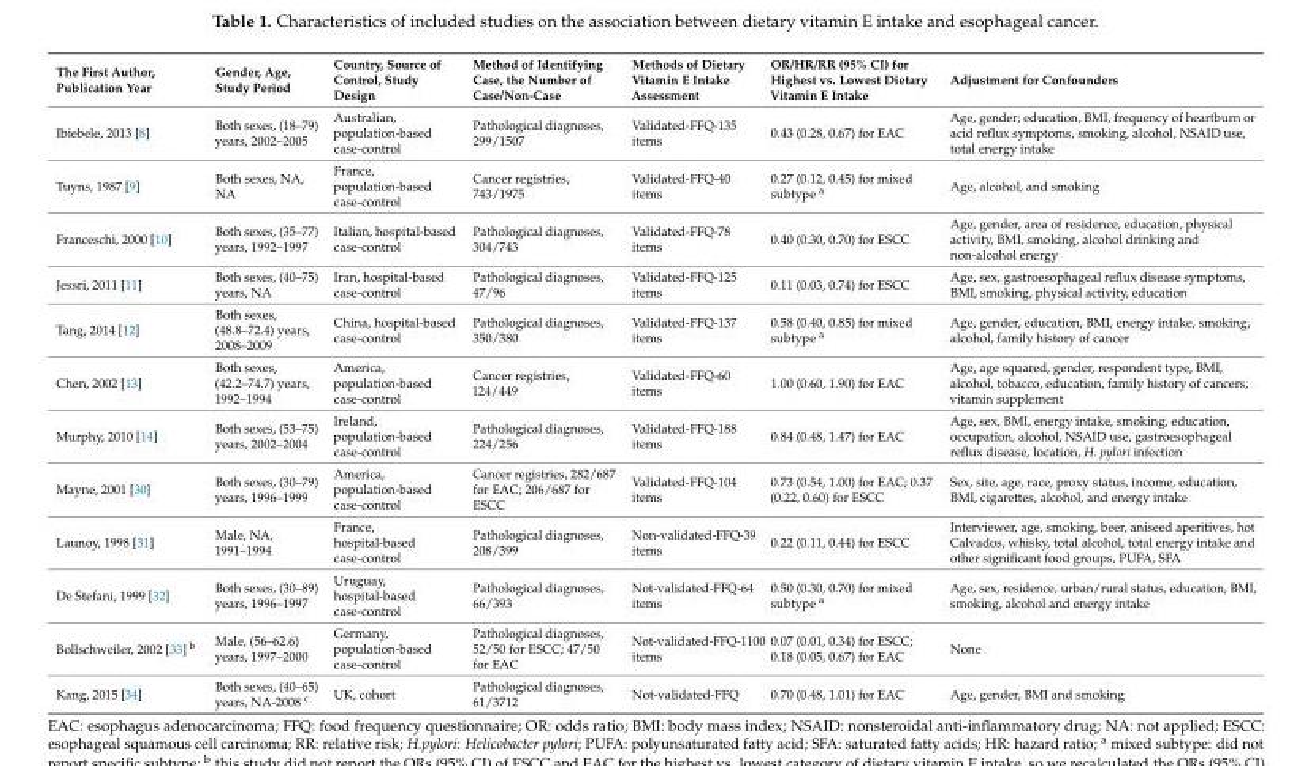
<table><thead><tr><td>The First Author, Publication Year</td><td>Gender, Age, Study Period</td><td>Country, Source of Control, Study Design</td><td>Method of Identifying Case, the Number of Case/Non-Case</td><td>Methods of Dietary Vitamin E Intake Assessment</td><td>OR/HR/RR (95% CI) for Highest vs. Lowest Dietary Vitamin E Intake</td><td>Adjustment for Confounders</td></tr></thead><tbody><tr><td>Ibiebele, 2013 [8]</td><td>Both sexes, (18–79) years, 2002–2005</td><td>Australian, population-based case-control</td><td>Pathological diagnoses, 299/1507</td><td>Validated-FFQ-135 items</td><td>0.43 (0.28, 0.67) for EAC</td><td>Age, gender; education, BMI, frequency of heartburn or acid reflux symptoms, smoking, alcohol, NSAID use, total energy intake</td></tr><tr><td>Tuyns, 1987 [9]</td><td>Both sexes, NA, NA</td><td>France, population-based case-control</td><td>Cancer registries, 743/1975</td><td>Validated-FFQ-40 items</td><td>0.27 (0.12, 0.45) for mixed subtype <sup>a</sup></td><td>Age, alcohol, and smoking</td></tr><tr><td>Franceschi, 2000 [10]</td><td>Both sexes, (35–77) years, 1992–1997</td><td>Italian, hospital-based case-control</td><td>Pathological diagnoses, 304/743</td><td>Validated-FFQ-78 items</td><td>0.40 (0.30, 0.70) for ESCC</td><td>Age, gender, area of residence, education, physical activity, BMI, smoking, alcohol drinking and non-alcohol energy</td></tr><tr><td>Jessri, 2011 [11]</td><td>Both sexes, (40–75) years, NA</td><td>Iran, hospital-based case-control</td><td>Pathological diagnoses, 47/96</td><td>Validated-FFQ-125 items</td><td>0.11 (0.03, 0.74) for ESCC</td><td>Age, sex, gastroesophageal reflux disease symptoms, BMI, smoking, physical activity, education</td></tr><tr><td>Tang, 2014 [12]</td><td>Both sexes, (48.8–72.4) years, 2008–2009</td><td>China, hospital-based case-control</td><td>Pathological diagnoses, 350/380</td><td>Validated-FFQ-137 items</td><td>0.58 (0.40, 0.85) for mixed subtype <sup>a</sup></td><td>Age, gender, education, BMI, energy intake, smoking, alcohol, family history of cancer</td></tr><tr><td>Chen, 2002 [13]</td><td>Both sexes, (42.2–74.7) years, 1992–1994</td><td>America, population-based case-control</td><td>Cancer registries, 124/449</td><td>Validated-FFQ-60 items</td><td>1.00 (0.60, 1.90) for EAC</td><td>Age, age squared, gender, respondent type, BMI, alcohol, tobacco, education, family history of cancers, vitamin supplement</td></tr><tr><td>Murphy, 2010 [14]</td><td>Both sexes, (53–75) years, 2002–2004</td><td>Ireland, population-based case-control</td><td>Pathological diagnoses, 224/256</td><td>Validated-FFQ-188 items</td><td>0.84 (0.48, 1.47) for EAC</td><td>Age, sex, BMI, energy intake, smoking, education, occupation, alcohol, NSAID use, gastroesophageal reflux disease, location, H. pylori infection</td></tr><tr><td>Mayne, 2001 [30]</td><td>Both sexes, (30–79) years, 1996–1999</td><td>America, population-based case-control</td><td>Cancer registries, 282/687 for EAC; 206/687 for ESCC</td><td>Validated-FFQ-104 items</td><td>0.73 (0.54, 1.00) for EAC; 0.37 (0.22, 0.60) for ESCC</td><td>Sex, site, age, race, proxy status, income, education, BMI, cigarettes, alcohol, and energy intake</td></tr><tr><td>Launoy, 1998 [31]</td><td>Male, NA, 1991–1994</td><td>France, hospital-based case-control</td><td>Pathological diagnoses, 208/399</td><td>Non-validated-FFQ-39 items</td><td>0.22 (0.11, 0.44) for ESCC</td><td>Interviewer, age, smoking, beer, aniseed aperitives, hot Calvados, whisky, total alcohol, total energy intake and other significant food groups, PUFA, SFA</td></tr><tr><td>De Stefani, 1999 [32]</td><td>Both sexes, (30–89) years, 1996–1997</td><td>Uruguay, hospital-based case-control</td><td>Pathological diagnoses, 66/393</td><td>Not-validated-FFQ-64 items</td><td>0.50 (0.30, 0.70) for mixed subtype <sup>a</sup></td><td>Age, sex, residence, urban/rural status, education, BMI, smoking, alcohol and energy intake</td></tr><tr><td>Bollschweiler, 2002 [33] <sup>b</sup></td><td>Male, (56–62.6) years, 1997–2000</td><td>Germany, population-based case-control</td><td>Pathological diagnoses, 52/50 for ESCC; 47/50 for EAC</td><td>Not-validated-FFQ-1100 items</td><td>0.07 (0.01, 0.34) for ESCC; 0.18 (0.05, 0.67) for EAC</td><td>None</td></tr><tr><td>Kang, 2015 [34]</td><td>Both sexes, (40–65) years, NA-2008 <sup>c</sup></td><td>UK, cohort</td><td>Pathological diagnoses, 61/3712</td><td>Not-validated-FFQ</td><td>0.70 (0.48, 1.01) for EAC</td><td>Age, gender, BMI and smoking</td></tr></tbody></table>